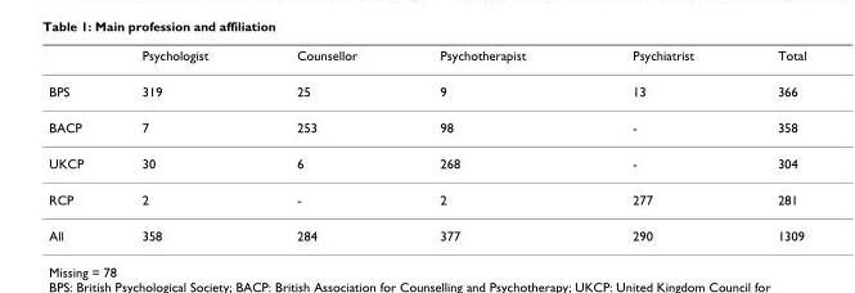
<table><thead><tr><td></td><td>Psychologist</td><td>Counsellor</td><td>Psychotherapist</td><td>Psychiatrist</td><td>Total</td></tr></thead><tbody><tr><td>BPS</td><td>319</td><td>25</td><td>9</td><td>13</td><td>366</td></tr><tr><td>BACP</td><td>7</td><td>253</td><td>98</td><td>-</td><td>358</td></tr><tr><td>UKCP</td><td>30</td><td>6</td><td>268</td><td>-</td><td>304</td></tr><tr><td>RCP</td><td>2</td><td>-</td><td>2</td><td>277</td><td>281</td></tr><tr><td>All</td><td>358</td><td>284</td><td>377</td><td>290</td><td>1309</td></tr></tbody></table>